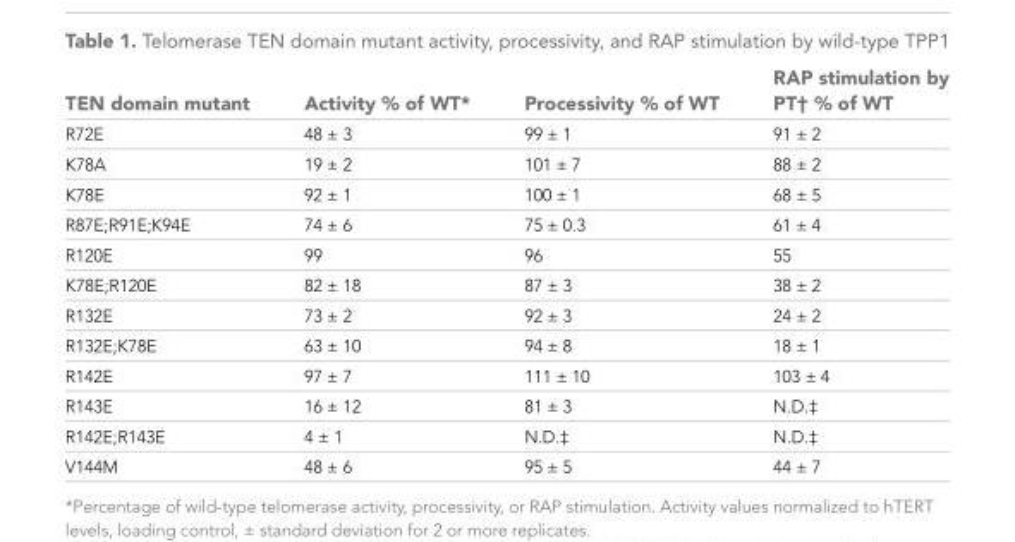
<table><thead><tr><td>TEN domain mutant</td><td>Activity % of WT*</td><td>Processivity % of WT</td><td>RAP stimulation by PT† % of WT</td></tr></thead><tbody><tr><td>R72E</td><td>48 ± 3</td><td>99 ± 1</td><td>91 ± 2</td></tr><tr><td>K78A</td><td>19 ± 2</td><td>101 ± 7</td><td>88 ± 2</td></tr><tr><td>K78E</td><td>92 ± 1</td><td>100 ± 1</td><td>68 ± 5</td></tr><tr><td>R87E;R91E;K94E</td><td>74 ± 6</td><td>75 ± 0.3</td><td>61 ± 4</td></tr><tr><td>R120E</td><td>99</td><td>96</td><td>55</td></tr><tr><td>K78E;R120E</td><td>82 ± 18</td><td>87 ± 3</td><td>38 ± 2</td></tr><tr><td>R132E</td><td>73 ± 2</td><td>92 ± 3</td><td>24 ± 2</td></tr><tr><td>R132E;K78E</td><td>63 ± 10</td><td>94 ± 8</td><td>18 ± 1</td></tr><tr><td>R142E</td><td>97 ± 7</td><td>111 ± 10</td><td>103 ± 4</td></tr><tr><td>R143E</td><td>16 ± 12</td><td>81 ± 3</td><td>N.D.‡</td></tr><tr><td>R142E;R143E</td><td>4 ± 1</td><td>N.D.‡</td><td>N.D.‡</td></tr><tr><td>V144M</td><td>48 ± 6</td><td>95 ± 5</td><td>44 ± 7</td></tr></tbody></table>